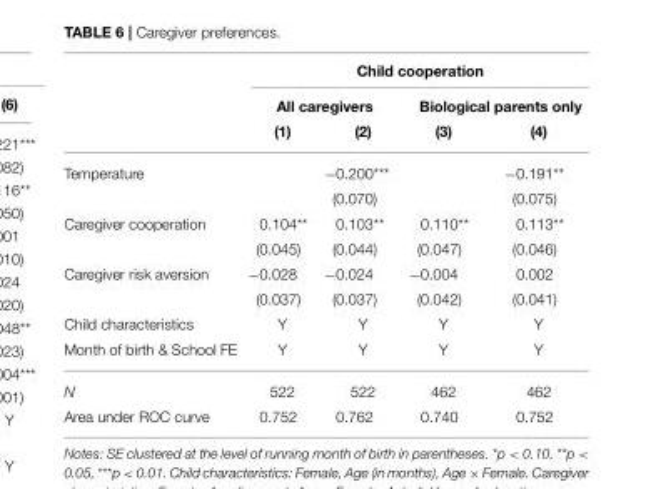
<table><thead><tr><td rowspan="3"></td><td colspan="4">Child cooperation</td></tr><tr><td colspan="2">All caregivers</td><td colspan="2">Biological parents only</td></tr><tr><td>(1)</td><td>(2)</td><td>(3)</td><td>(4)</td></tr></thead><tbody><tr><td rowspan="2">Temperature</td><td></td><td>−0.200***</td><td></td><td>−0.191**</td></tr><tr><td></td><td>(0.070)</td><td></td><td>(0.075)</td></tr><tr><td rowspan="2">Caregiver cooperation</td><td>0.104**</td><td>0.103**</td><td>0.110**</td><td>0.113**</td></tr><tr><td>(0.045)</td><td>(0.044)</td><td>(0.047)</td><td>(0.046)</td></tr><tr><td rowspan="2">Caregiver risk aversion</td><td>−0.028</td><td>−0.024</td><td>−0.004</td><td>0.002</td></tr><tr><td>(0.037)</td><td>(0.037)</td><td>(0.042)</td><td>(0.041)</td></tr><tr><td>Child characteristics</td><td>Y</td><td>Y</td><td>Y</td><td>Y</td></tr><tr><td>Month of birth &amp; School FE</td><td>Y</td><td>Y</td><td>Y</td><td>Y</td></tr><tr><td>N</td><td>522</td><td>522</td><td>462</td><td>462</td></tr><tr><td>Area under ROC curve</td><td>0.752</td><td>0.762</td><td>0.740</td><td>0.752</td></tr></tbody></table>